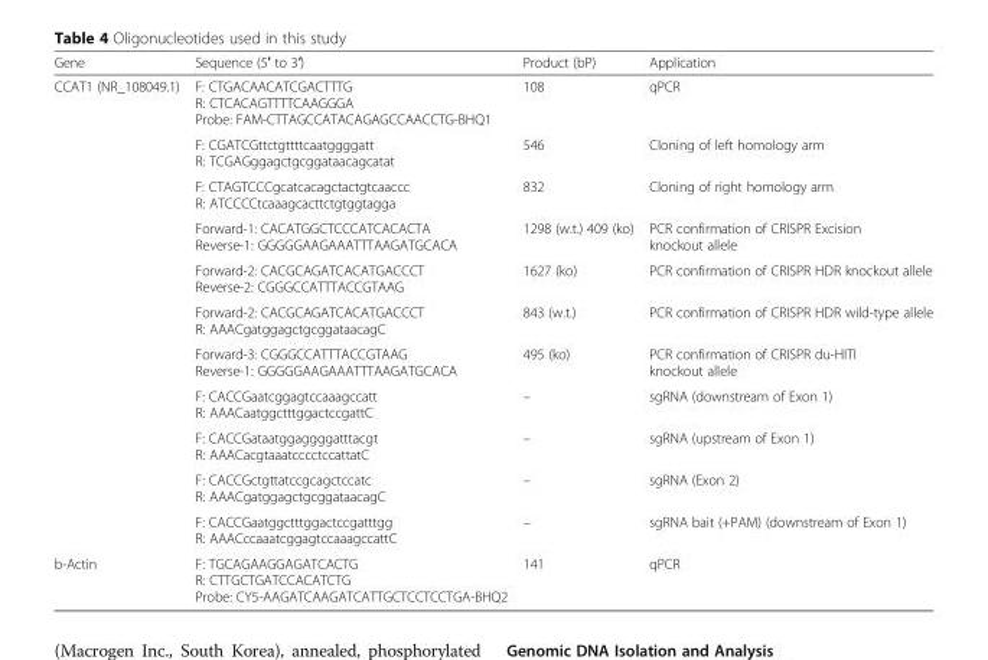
<table><thead><tr><td>Gene</td><td>Sequence (5′ to 3′)</td><td>Product (bP)</td><td>Application</td></tr></thead><tbody><tr><td rowspan="11">CCAT1 (NR_108049.1)</td><td>F: CTGACAACATCGACTTTG R: CTCACAGTTTTCAAGGGA Probe: FAM-CTTAGCCATACAGAGCCAACCTG-BHQ1</td><td>108</td><td>qPCR</td></tr><tr><td>F: CGATCGttctgttttcaatggggatt R: TCGAGggagctgcggataacagcatat</td><td>546</td><td>Cloning of left homology arm</td></tr><tr><td>F: CTAGTCCCgcatcacagctactgtcaaccc R: ATCCCCtcaaagcacttctgtggtagga</td><td>832</td><td>Cloning of right homology arm</td></tr><tr><td>Forward-1: CACATGGCTCCCATCACACTA Reverse-1: GGGGGAAGAAATTTAAGATGCACA</td><td>1298 (w.t.) 409 (ko)</td><td>PCR confirmation of CRISPR Excision knockout allele</td></tr><tr><td>Forward-2: CACGCAGATCACATGACCCT Reverse-2: CGGGCCATTTACCGTAAG</td><td>1627 (ko)</td><td>PCR confirmation of CRISPR HDR knockout allele</td></tr><tr><td>Forward-2: CACGCAGATCACATGACCCT R: AAACgatggagctgcggataacagC</td><td>843 (w.t.)</td><td>PCR confirmation of CRISPR HDR wild-type allele</td></tr><tr><td>Forward-3: CGGGCCATTTACCGTAAG Reverse-1: GGGGGAAGAAATTTAAGATGCACA</td><td>495 (ko)</td><td>PCR confirmation of CRISPR du-HITI knockout allele</td></tr><tr><td>F: CACCGaatcggagtccaaagccatt R: AAACaatggctttggactccgattC</td><td>–</td><td>sgRNA (downstream of Exon 1)</td></tr><tr><td>F: CACCGataatggaggggatttacgt R: AAACacgtaaatcccctccattatC</td><td>–</td><td>sgRNA (upstream of Exon 1)</td></tr><tr><td>F: CACCGctgttatccgcagctccatc R: AAACgatggagctgcggataacagC</td><td>–</td><td>sgRNA (Exon 2)</td></tr><tr><td>F: CACCGaatggctttggactccgatttgg R: AAACccaaatcggagtccaaagccattC</td><td>–</td><td>sgRNA bait (+PAM) (downstream of Exon 1)</td></tr><tr><td>b-Actin</td><td>F: TGCAGAAGGAGATCACTG R: CTTGCTGATCCACATCTG Probe: CY5-AAGATCAAGATCATTGCTCCTCCTGA-BHQ2</td><td>141</td><td>qPCR</td></tr></tbody></table>